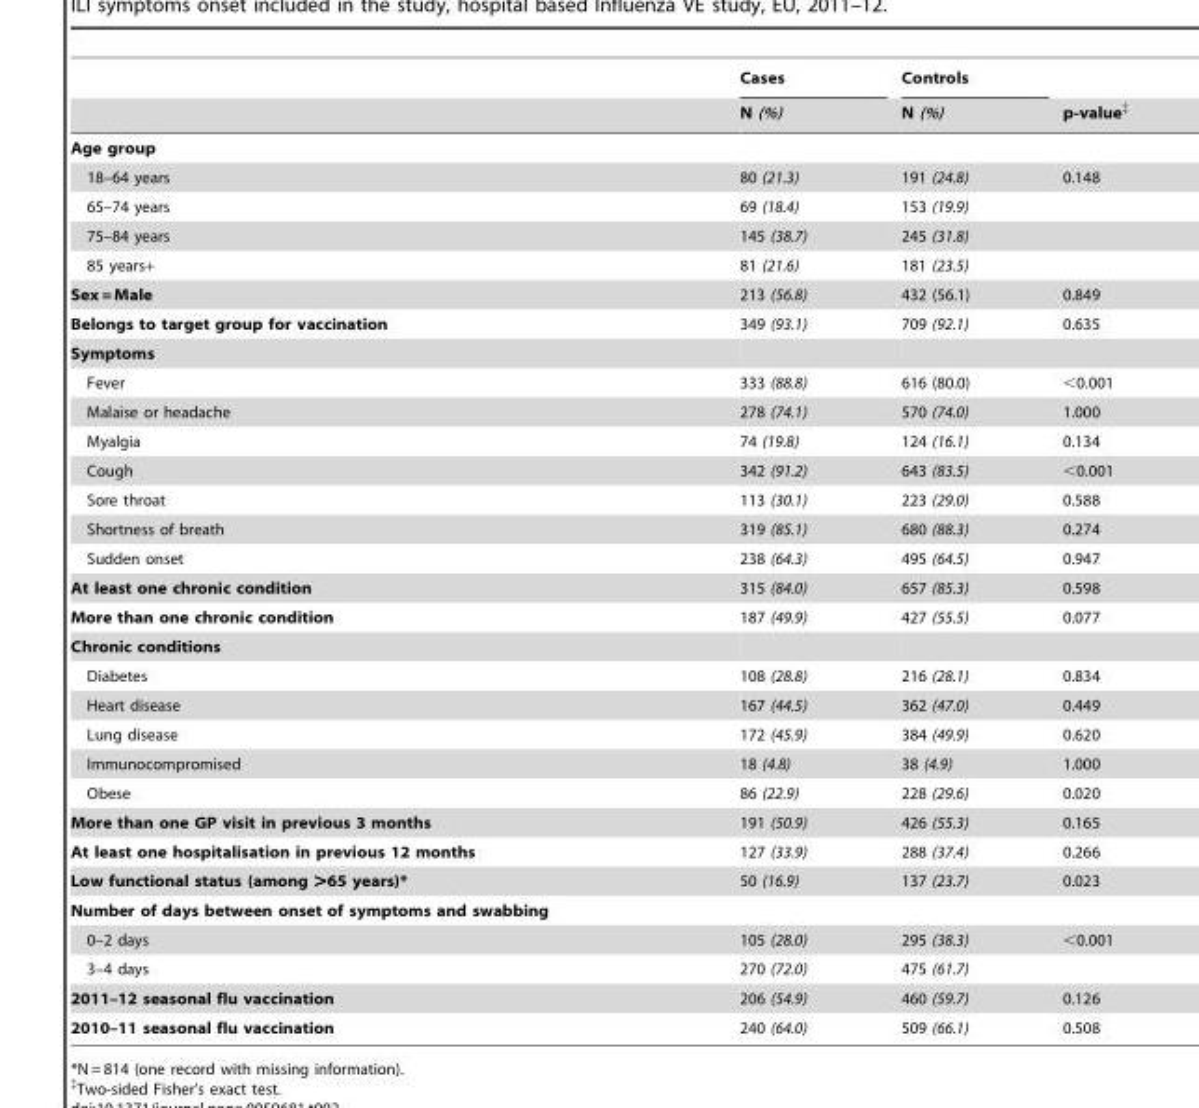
<table><thead><tr><td rowspan="2"></td><td rowspan="2">Cases N (%)</td><td rowspan="2">Controls N (%)</td><td rowspan="2">p-value‡</td></tr><tr></tr></thead><tbody><tr><td colspan="4">Age group</td></tr><tr><td>18–64 years</td><td>80 (21.3)</td><td>191 (24.8)</td><td>0.148</td></tr><tr><td>65–74 years</td><td>69 (18.4)</td><td>153 (19.9)</td><td></td></tr><tr><td>75–84 years</td><td>145 (38.7)</td><td>245 (31.8)</td><td></td></tr><tr><td>85 years+</td><td>81 (21.6)</td><td>181 (23.5)</td><td></td></tr><tr><td>Sex = Male</td><td>213 (56.8)</td><td>432 (56.1)</td><td>0.849</td></tr><tr><td>Belongs to target group for vaccination</td><td>349 (93.1)</td><td>709 (92.1)</td><td>0.635</td></tr><tr><td colspan="4">Symptoms</td></tr><tr><td>Fever</td><td>333 (88.8)</td><td>616 (80.0)</td><td>&lt;0.001</td></tr><tr><td>Malaise or headache</td><td>278 (74.1)</td><td>570 (74.0)</td><td>1.000</td></tr><tr><td>Myalgia</td><td>74 (19.8)</td><td>124 (16.1)</td><td>0.134</td></tr><tr><td>Cough</td><td>342 (91.2)</td><td>643 (83.5)</td><td>&lt;0.001</td></tr><tr><td>Sore throat</td><td>113 (30.1)</td><td>223 (29.0)</td><td>0.588</td></tr><tr><td>Shortness of breath</td><td>319 (85.1)</td><td>680 (88.3)</td><td>0.274</td></tr><tr><td>Sudden onset</td><td>238 (64.3)</td><td>495 (64.5)</td><td>0.947</td></tr><tr><td>At least one chronic condition</td><td>315 (84.0)</td><td>657 (85.3)</td><td>0.598</td></tr><tr><td>More than one chronic condition</td><td>187 (49.9)</td><td>427 (55.5)</td><td>0.077</td></tr><tr><td colspan="4">Chronic conditions</td></tr><tr><td>Diabetes</td><td>108 (28.8)</td><td>216 (28.1)</td><td>0.834</td></tr><tr><td>Heart disease</td><td>167 (44.5)</td><td>362 (47.0)</td><td>0.449</td></tr><tr><td>Lung disease</td><td>172 (45.9)</td><td>384 (49.9)</td><td>0.620</td></tr><tr><td>Immunocompromised</td><td>18 (4.8)</td><td>38 (4.9)</td><td>1.000</td></tr><tr><td>Obese</td><td>86 (22.9)</td><td>228 (29.6)</td><td>0.020</td></tr><tr><td>More than one GP visit in previous 3 months</td><td>191 (50.9)</td><td>426 (55.3)</td><td>0.165</td></tr><tr><td>At least one hospitalisation in previous 12 months</td><td>127 (33.9)</td><td>288 (37.4)</td><td>0.266</td></tr><tr><td>Low functional status (among &gt;65 years)*</td><td>50 (16.9)</td><td>137 (23.7)</td><td>0.023</td></tr><tr><td colspan="4">Number of days between onset of symptoms and swabbing</td></tr><tr><td>0–2 days</td><td>105 (28.0)</td><td>295 (38.3)</td><td>&lt;0.001</td></tr><tr><td>3–4 days</td><td>270 (72.0)</td><td>475 (61.7)</td><td></td></tr><tr><td>2011–12 seasonal flu vaccination</td><td>206 (54.9)</td><td>460 (59.7)</td><td>0.126</td></tr><tr><td>2010–11 seasonal flu vaccination</td><td>240 (64.0)</td><td>509 (66.1)</td><td>0.508</td></tr></tbody></table>